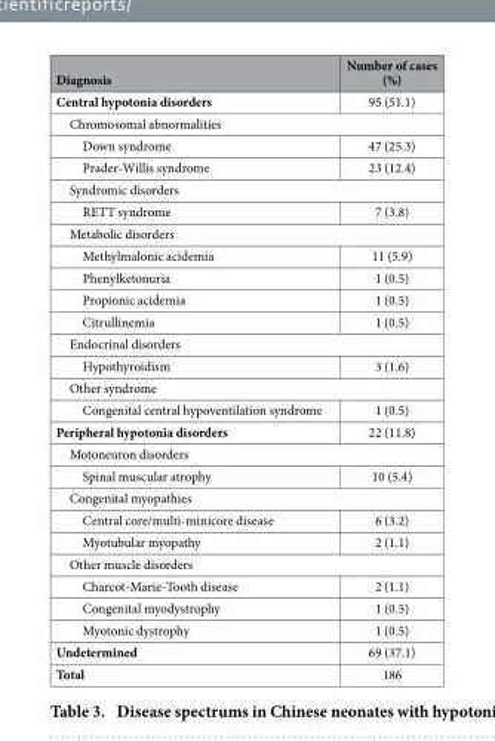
<table><thead><tr><td>Diagnosis</td><td>Number of cases (%)</td></tr></thead><tbody><tr><td>Central hypotonia disorders</td><td>95 (51.1)</td></tr><tr><td colspan="2">Chromosomal abnormalities</td></tr><tr><td>Down syndrome</td><td>47 (25.3)</td></tr><tr><td>Prader-Willis syndrome</td><td>23 (12.4)</td></tr><tr><td colspan="2">Syndromic disorders</td></tr><tr><td>RETT syndrome</td><td>7 (3.8)</td></tr><tr><td colspan="2">Metabolic disorders</td></tr><tr><td>Methylmalonic acidemia</td><td>11 (5.9)</td></tr><tr><td>Phenylketonuria</td><td>1 (0.5)</td></tr><tr><td>Propionic acidemia</td><td>1 (0.5)</td></tr><tr><td>Citrullinemia</td><td>1 (0.5)</td></tr><tr><td colspan="2">Endocrinal disorders</td></tr><tr><td>Hypothyroidism</td><td>3 (1.6)</td></tr><tr><td colspan="2">Other syndrome</td></tr><tr><td>Congenital central hypoventilation syndrome</td><td>1 (0.5)</td></tr><tr><td>Peripheral hypotonia disorders</td><td>22 (11.8)</td></tr><tr><td colspan="2">Motoneuron disorders</td></tr><tr><td>Spinal muscular atrophy</td><td>10 (5.4)</td></tr><tr><td colspan="2">Congenital myopathies</td></tr><tr><td>Central core/multi-minicore disease</td><td>6 (3.2)</td></tr><tr><td>Myotubular myopathy</td><td>2 (1.1)</td></tr><tr><td colspan="2">Other muscle disorders</td></tr><tr><td>Charcot-Marie-Tooth disease</td><td>2 (1.1)</td></tr><tr><td>Congenital myodystrophy</td><td>1 (0.5)</td></tr><tr><td>Myotonic dystrophy</td><td>1 (0.5)</td></tr><tr><td>Undetermined</td><td>69 (37.1)</td></tr><tr><td>Total</td><td>186</td></tr></tbody></table>